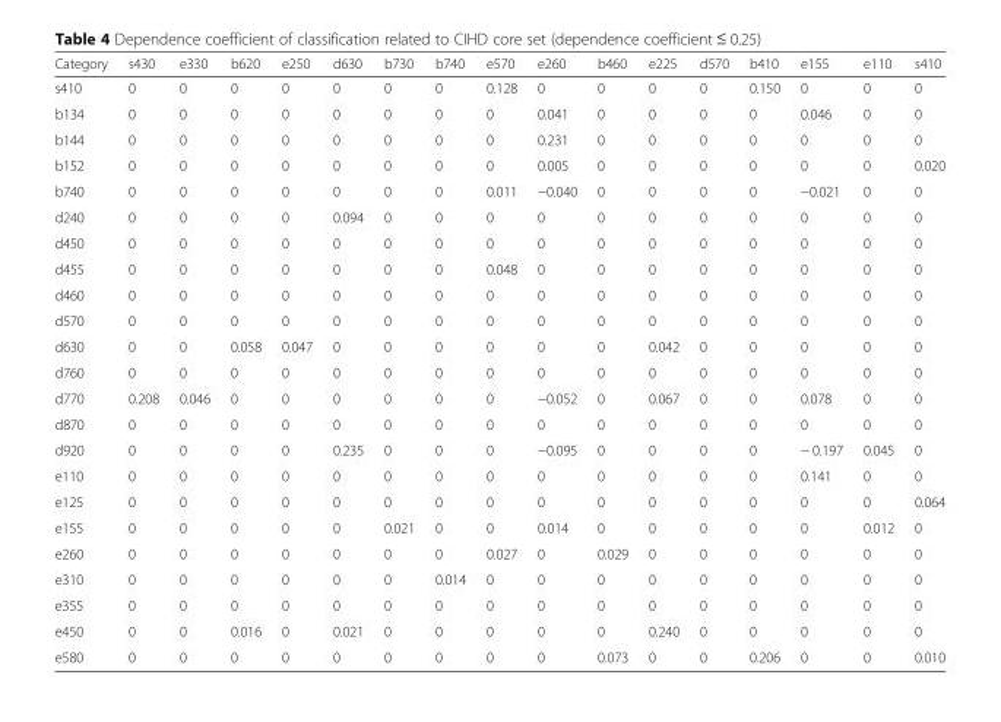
<table><thead><tr><td>Category</td><td>s430</td><td>e330</td><td>b620</td><td>e250</td><td>d630</td><td>b730</td><td>b740</td><td>e570</td><td>e260</td><td>b460</td><td>e225</td><td>d570</td><td>b410</td><td>e155</td><td>e110</td><td>s410</td></tr></thead><tbody><tr><td>s410</td><td>0</td><td>0</td><td>0</td><td>0</td><td>0</td><td>0</td><td>0</td><td>0.128</td><td>0</td><td>0</td><td>0</td><td>0</td><td>0.150</td><td>0</td><td>0</td><td>0</td></tr><tr><td>b134</td><td>0</td><td>0</td><td>0</td><td>0</td><td>0</td><td>0</td><td>0</td><td>0</td><td>0.041</td><td>0</td><td>0</td><td>0</td><td>0</td><td>0.046</td><td>0</td><td>0</td></tr><tr><td>b144</td><td>0</td><td>0</td><td>0</td><td>0</td><td>0</td><td>0</td><td>0</td><td>0</td><td>0.231</td><td>0</td><td>0</td><td>0</td><td>0</td><td>0</td><td>0</td><td>0</td></tr><tr><td>b152</td><td>0</td><td>0</td><td>0</td><td>0</td><td>0</td><td>0</td><td>0</td><td>0</td><td>0.005</td><td>0</td><td>0</td><td>0</td><td>0</td><td>0</td><td>0</td><td>0.020</td></tr><tr><td>b740</td><td>0</td><td>0</td><td>0</td><td>0</td><td>0</td><td>0</td><td>0</td><td>0.011</td><td>−0.040</td><td>0</td><td>0</td><td>0</td><td>0</td><td>−0.021</td><td>0</td><td>0</td></tr><tr><td>d240</td><td>0</td><td>0</td><td>0</td><td>0</td><td>0.094</td><td>0</td><td>0</td><td>0</td><td>0</td><td>0</td><td>0</td><td>0</td><td>0</td><td>0</td><td>0</td><td>0</td></tr><tr><td>d450</td><td>0</td><td>0</td><td>0</td><td>0</td><td>0</td><td>0</td><td>0</td><td>0</td><td>0</td><td>0</td><td>0</td><td>0</td><td>0</td><td>0</td><td>0</td><td>0</td></tr><tr><td>d455</td><td>0</td><td>0</td><td>0</td><td>0</td><td>0</td><td>0</td><td>0</td><td>0.048</td><td>0</td><td>0</td><td>0</td><td>0</td><td>0</td><td>0</td><td>0</td><td>0</td></tr><tr><td>d460</td><td>0</td><td>0</td><td>0</td><td>0</td><td>0</td><td>0</td><td>0</td><td>0</td><td>0</td><td>0</td><td>0</td><td>0</td><td>0</td><td>0</td><td>0</td><td>0</td></tr><tr><td>d570</td><td>0</td><td>0</td><td>0</td><td>0</td><td>0</td><td>0</td><td>0</td><td>0</td><td>0</td><td>0</td><td>0</td><td>0</td><td>0</td><td>0</td><td>0</td><td>0</td></tr><tr><td>d630</td><td>0</td><td>0</td><td>0.058</td><td>0.047</td><td>0</td><td>0</td><td>0</td><td>0</td><td>0</td><td>0</td><td>0.042</td><td>0</td><td>0</td><td>0</td><td>0</td><td>0</td></tr><tr><td>d760</td><td>0</td><td>0</td><td>0</td><td>0</td><td>0</td><td>0</td><td>0</td><td>0</td><td>0</td><td>0</td><td>0</td><td>0</td><td>0</td><td>0</td><td>0</td><td>0</td></tr><tr><td>d770</td><td>0.208</td><td>0.046</td><td>0</td><td>0</td><td>0</td><td>0</td><td>0</td><td>0</td><td>−0.052</td><td>0</td><td>0.067</td><td>0</td><td>0</td><td>0.078</td><td>0</td><td>0</td></tr><tr><td>d870</td><td>0</td><td>0</td><td>0</td><td>0</td><td>0</td><td>0</td><td>0</td><td>0</td><td>0</td><td>0</td><td>0</td><td>0</td><td>0</td><td>0</td><td>0</td><td>0</td></tr><tr><td>d920</td><td>0</td><td>0</td><td>0</td><td>0</td><td>0.235</td><td>0</td><td>0</td><td>0</td><td>−0.095</td><td>0</td><td>0</td><td>0</td><td>0</td><td>− 0.197</td><td>0.045</td><td>0</td></tr><tr><td>e110</td><td>0</td><td>0</td><td>0</td><td>0</td><td>0</td><td>0</td><td>0</td><td>0</td><td>0</td><td>0</td><td>0</td><td>0</td><td>0</td><td>0.141</td><td>0</td><td>0</td></tr><tr><td>e125</td><td>0</td><td>0</td><td>0</td><td>0</td><td>0</td><td>0</td><td>0</td><td>0</td><td>0</td><td>0</td><td>0</td><td>0</td><td>0</td><td>0</td><td>0</td><td>0.064</td></tr><tr><td>e155</td><td>0</td><td>0</td><td>0</td><td>0</td><td>0</td><td>0.021</td><td>0</td><td>0</td><td>0.014</td><td>0</td><td>0</td><td>0</td><td>0</td><td>0</td><td>0.012</td><td>0</td></tr><tr><td>e260</td><td>0</td><td>0</td><td>0</td><td>0</td><td>0</td><td>0</td><td>0</td><td>0.027</td><td>0</td><td>0.029</td><td>0</td><td>0</td><td>0</td><td>0</td><td>0</td><td>0</td></tr><tr><td>e310</td><td>0</td><td>0</td><td>0</td><td>0</td><td>0</td><td>0</td><td>0.014</td><td>0</td><td>0</td><td>0</td><td>0</td><td>0</td><td>0</td><td>0</td><td>0</td><td>0</td></tr><tr><td>e355</td><td>0</td><td>0</td><td>0</td><td>0</td><td>0</td><td>0</td><td>0</td><td>0</td><td>0</td><td>0</td><td>0</td><td>0</td><td>0</td><td>0</td><td>0</td><td>0</td></tr><tr><td>e450</td><td>0</td><td>0</td><td>0.016</td><td>0</td><td>0.021</td><td>0</td><td>0</td><td>0</td><td>0</td><td>0</td><td>0.240</td><td>0</td><td>0</td><td>0</td><td>0</td><td>0</td></tr><tr><td>e580</td><td>0</td><td>0</td><td>0</td><td>0</td><td>0</td><td>0</td><td>0</td><td>0</td><td>0</td><td>0.073</td><td>0</td><td>0</td><td>0.206</td><td>0</td><td>0</td><td>0.010</td></tr></tbody></table>